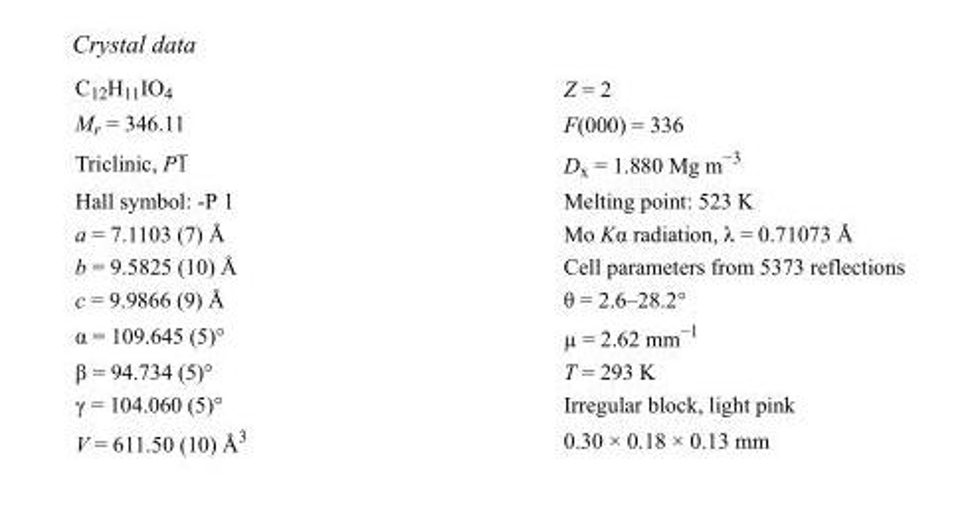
<table><tbody><tr><td>C<sub>12</sub>H<sub>11</sub>IO<sub>4</sub></td><td>Z = 2</td></tr><tr><td>M<sub>r</sub> = 346.11</td><td>F(000) = 336</td></tr><tr><td>Triclinic, P1</td><td>D<sub>x</sub> = 1.880 Mg m<sup>−3</sup></td></tr><tr><td>Hall symbol: -P 1</td><td>Melting point: 523 K</td></tr><tr><td>a = 7.1103 (7) Å</td><td>Mo Kα radiation, λ = 0.71073 Å</td></tr><tr><td>b = 9.5825 (10) Å</td><td>Cell parameters from 5373 reflections</td></tr><tr><td>c = 9.9866 (9) Å</td><td>θ = 2.6–28.2°</td></tr><tr><td>α = 109.645 (5)°</td><td>µ = 2.62 mm<sup>−1</sup></td></tr><tr><td>β = 94.734 (5)°</td><td>T = 293 K</td></tr><tr><td>γ = 104.060 (5)°</td><td>Irregular block, light pink</td></tr><tr><td>V = 611.50 (10) Å<sup>3</sup></td><td>0.30 × 0.18 × 0.13 mm</td></tr></tbody></table>